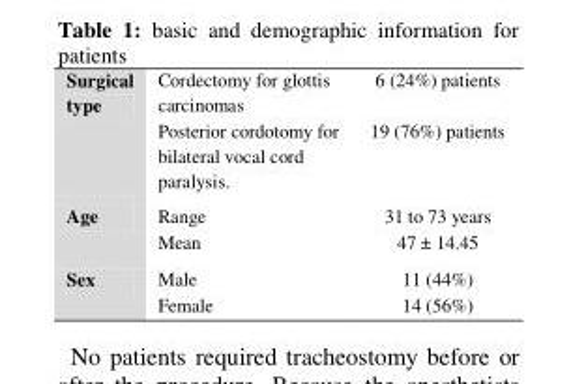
<table><tbody><tr><td rowspan="2">Surgical type</td><td>Cordectomy for glottis carcinomas</td><td>6 (24%) patients</td></tr><tr><td>Posterior cordotomy for bilateral vocal cord paralysis.</td><td>19 (76%) patients</td></tr><tr><td rowspan="2">Age</td><td>Range</td><td>31 to 73 years</td></tr><tr><td>Mean</td><td>47 ± 14.45</td></tr><tr><td rowspan="2">Sex</td><td>Male</td><td>11 (44%)</td></tr><tr><td>Female</td><td>14 (56%)</td></tr></tbody></table>